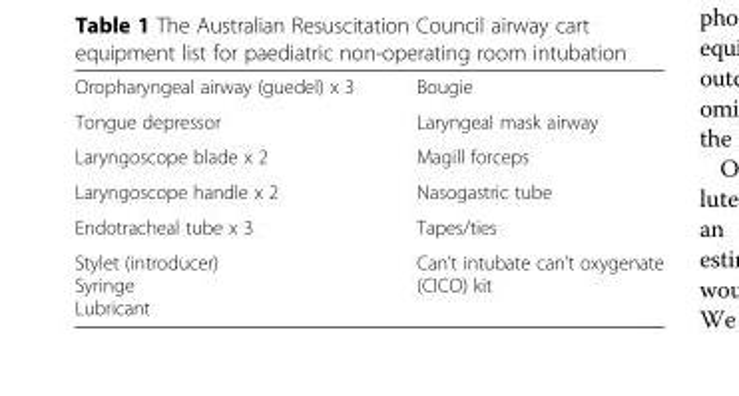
<table><tbody><tr><td>Oropharyngeal airway (guedel) x 3</td><td>Bougie</td></tr><tr><td>Tongue depressor</td><td>Laryngeal mask airway</td></tr><tr><td>Laryngoscope blade x 2</td><td>Magill forceps</td></tr><tr><td>Laryngoscope handle x 2</td><td>Nasogastric tube</td></tr><tr><td>Endotracheal tube x 3</td><td>Tapes/ties</td></tr><tr><td>Stylet (introducer) Syringe Lubricant</td><td>Can’t intubate can’t oxygenate (CICO) kit</td></tr></tbody></table>